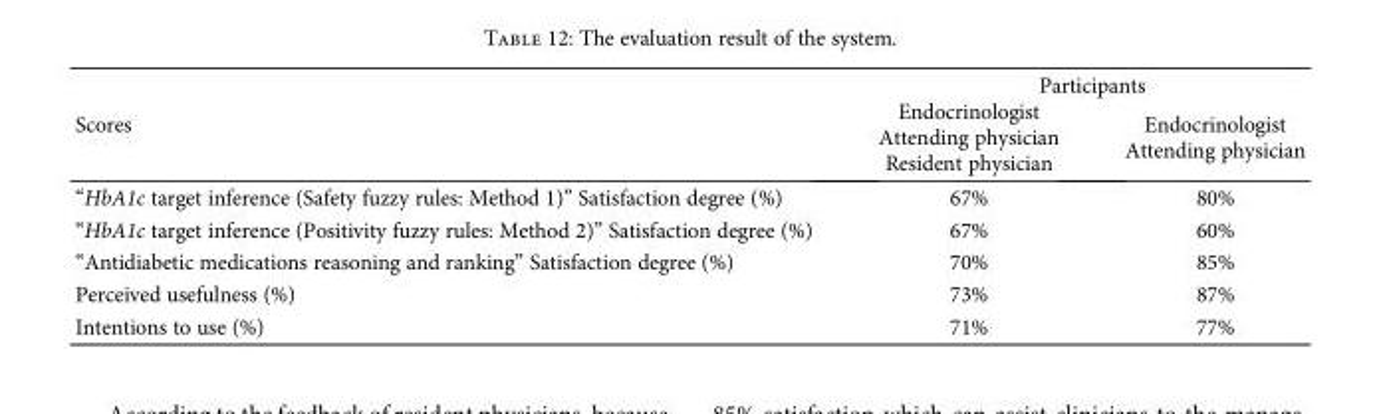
<table><thead><tr><td rowspan="2">Scores</td><td colspan="2">Participants</td></tr><tr><td>Endocrinologist Attending physician Resident physician</td><td>Endocrinologist Attending physician</td></tr></thead><tbody><tr><td>“HbA1c target inference (Safety fuzzy rules: Method 1)” Satisfaction degree (%)</td><td>67%</td><td>80%</td></tr><tr><td>“HbA1c target inference (Positivity fuzzy rules: Method 2)” Satisfaction degree (%)</td><td>67%</td><td>60%</td></tr><tr><td>“Antidiabetic medications reasoning and ranking” Satisfaction degree (%)</td><td>70%</td><td>85%</td></tr><tr><td>Perceived usefulness (%)</td><td>73%</td><td>87%</td></tr><tr><td>Intentions to use (%)</td><td>71%</td><td>77%</td></tr></tbody></table>